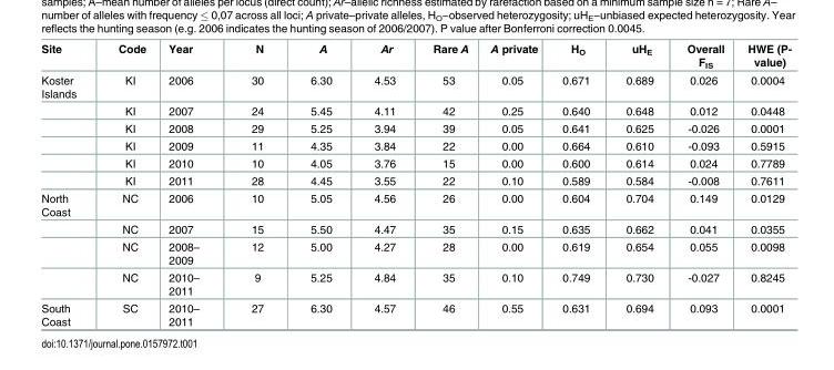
<table><thead><tr><td>Site</td><td>Code</td><td>Year</td><td>N</td><td>A</td><td>Ar</td><td>Rare A</td><td>A private</td><td>H<sub>O</sub></td><td>uH<sub>E</sub></td><td>Overall F<sub>IS</sub></td><td>HWE (P- value)</td></tr></thead><tbody><tr><td rowspan="6">Koster Islands</td><td>KI</td><td>2006</td><td>30</td><td>6.30</td><td>4.53</td><td>53</td><td>0.05</td><td>0.671</td><td>0.689</td><td>0.026</td><td>0.0004</td></tr><tr><td>KI</td><td>2007</td><td>24</td><td>5.45</td><td>4.11</td><td>42</td><td>0.25</td><td>0.640</td><td>0.648</td><td>0.012</td><td>0.0448</td></tr><tr><td>KI</td><td>2008</td><td>29</td><td>5.25</td><td>3.94</td><td>39</td><td>0.05</td><td>0.641</td><td>0.625</td><td>-0.026</td><td>0.0001</td></tr><tr><td>KI</td><td>2009</td><td>11</td><td>4.35</td><td>3.84</td><td>22</td><td>0.00</td><td>0.664</td><td>0.610</td><td>-0.093</td><td>0.5915</td></tr><tr><td>KI</td><td>2010</td><td>10</td><td>4.05</td><td>3.76</td><td>15</td><td>0.00</td><td>0.600</td><td>0.614</td><td>0.024</td><td>0.7789</td></tr><tr><td>KI</td><td>2011</td><td>28</td><td>4.45</td><td>3.55</td><td>22</td><td>0.10</td><td>0.589</td><td>0.584</td><td>-0.008</td><td>0.7611</td></tr><tr><td rowspan="4">North Coast</td><td>NC</td><td>2006</td><td>10</td><td>5.05</td><td>4.56</td><td>26</td><td>0.00</td><td>0.604</td><td>0.704</td><td>0.149</td><td>0.0129</td></tr><tr><td>NC</td><td>2007</td><td>15</td><td>5.50</td><td>4.47</td><td>35</td><td>0.15</td><td>0.635</td><td>0.662</td><td>0.041</td><td>0.0355</td></tr><tr><td>NC</td><td>2008– 2009</td><td>12</td><td>5.00</td><td>4.27</td><td>28</td><td>0.00</td><td>0.619</td><td>0.654</td><td>0.055</td><td>0.0098</td></tr><tr><td>NC</td><td>2010– 2011</td><td>9</td><td>5.25</td><td>4.84</td><td>35</td><td>0.10</td><td>0.749</td><td>0.730</td><td>-0.027</td><td>0.8245</td></tr><tr><td>South Coast</td><td>SC</td><td>2010– 2011</td><td>27</td><td>6.30</td><td>4.57</td><td>46</td><td>0.55</td><td>0.631</td><td>0.694</td><td>0.093</td><td>0.0001</td></tr></tbody></table>